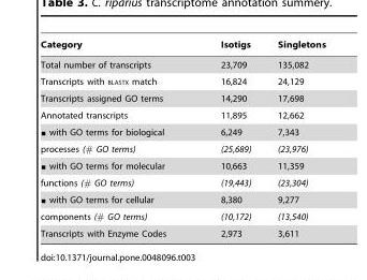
<table><thead><tr><td>Category</td><td>Isotigs</td><td>Singletons</td></tr></thead><tbody><tr><td>Total number of transcripts</td><td>23,709</td><td>135,082</td></tr><tr><td>Transcripts with BLASTX match</td><td>16,824</td><td>24,129</td></tr><tr><td>Transcripts assigned GO terms</td><td>14,290</td><td>17,698</td></tr><tr><td>Annotated transcripts</td><td>11,895</td><td>12,662</td></tr><tr><td>▪ with GO terms for biological</td><td>6,249</td><td>7,343</td></tr><tr><td>processes (# GO terms)</td><td>(25,689)</td><td>(23,976)</td></tr><tr><td>▪ with GO terms for molecular</td><td>10,663</td><td>11,359</td></tr><tr><td>functions (# GO terms)</td><td>(19,443)</td><td>(23,304)</td></tr><tr><td>▪ with GO terms for cellular</td><td>8,380</td><td>9,277</td></tr><tr><td>components (# GO terms)</td><td>(10,172)</td><td>(13,540)</td></tr><tr><td>Transcripts with Enzyme Codes</td><td>2,973</td><td>3,611</td></tr></tbody></table>